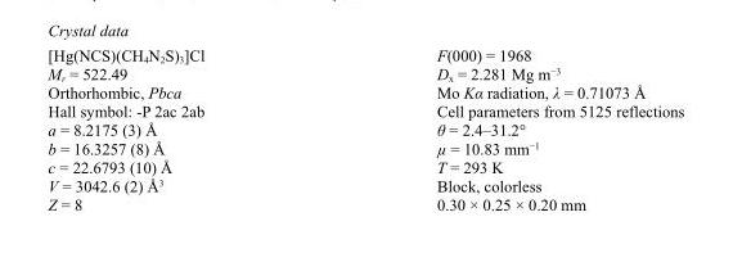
<table><tbody><tr><td>[Hg(NCS)(CH<sub>4</sub>N<sub>2</sub>S)<sub>3</sub>]Cl</td><td>F(000) = 1968</td></tr><tr><td>M<sub>r</sub> = 522.49</td><td>D<sub>x</sub> = 2.281 Mg m<sup>−3</sup></td></tr><tr><td>Orthorhombic, Pbca</td><td>Mo Kα radiation, λ = 0.71073 Å</td></tr><tr><td>Hall symbol: -P 2ac 2ab</td><td>Cell parameters from 5125 reflections</td></tr><tr><td>a = 8.2175 (3) Å</td><td>θ = 2.4–31.2°</td></tr><tr><td>b = 16.3257 (8) Å</td><td>µ = 10.83 mm<sup>−1</sup></td></tr><tr><td>c = 22.6793 (10) Å</td><td>T = 293 K</td></tr><tr><td>V = 3042.6 (2) Å<sup>3</sup></td><td>Block, colorless</td></tr><tr><td>Z = 8</td><td>0.30 × 0.25 × 0.20 mm</td></tr></tbody></table>